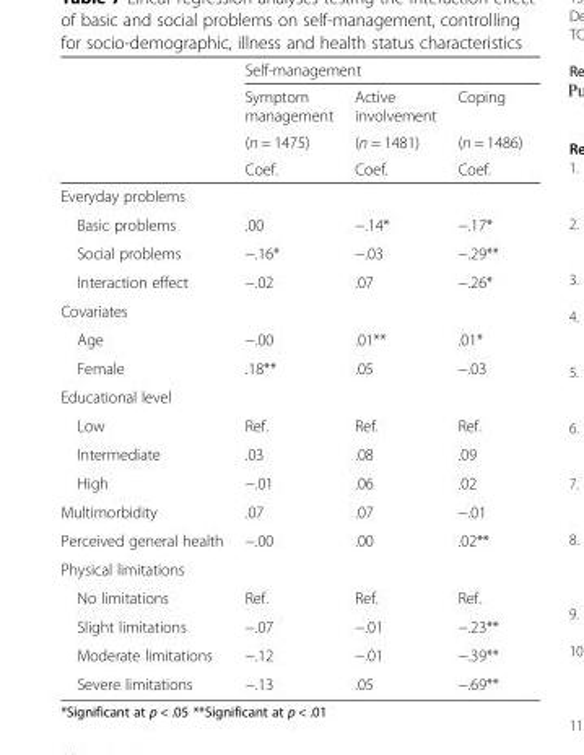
<table><thead><tr><td rowspan="4"></td><td colspan="3">Self-management</td></tr><tr><td rowspan="3">Symptom management (n = 1475) Coef.</td><td rowspan="3">Active involvement (n = 1481) Coef.</td><td rowspan="3">Coping (n = 1486) Coef.</td></tr><tr></tr><tr></tr></thead><tbody><tr><td colspan="4">Everyday problems</td></tr><tr><td>Basic problems</td><td>.00</td><td>−.14*</td><td>−.17*</td></tr><tr><td>Social problems</td><td>−.16*</td><td>−.03</td><td>−.29**</td></tr><tr><td>Interaction effect</td><td>−.02</td><td>.07</td><td>−.26*</td></tr><tr><td colspan="4">Covariates</td></tr><tr><td>Age</td><td>−.00</td><td>.01**</td><td>.01*</td></tr><tr><td>Female</td><td>.18**</td><td>.05</td><td>−.03</td></tr><tr><td colspan="4">Educational level</td></tr><tr><td>Low</td><td>Ref.</td><td>Ref.</td><td>Ref.</td></tr><tr><td>Intermediate</td><td>.03</td><td>.08</td><td>.09</td></tr><tr><td>High</td><td>−.01</td><td>.06</td><td>.02</td></tr><tr><td>Multimorbidity</td><td>.07</td><td>.07</td><td>−.01</td></tr><tr><td>Perceived general health</td><td>−.00</td><td>.00</td><td>.02**</td></tr><tr><td colspan="4">Physical limitations</td></tr><tr><td>No limitations</td><td>Ref.</td><td>Ref.</td><td>Ref.</td></tr><tr><td>Slight limitations</td><td>−.07</td><td>−.01</td><td>−.23**</td></tr><tr><td>Moderate limitations</td><td>−.12</td><td>−.01</td><td>−.39**</td></tr><tr><td>Severe limitations</td><td>−.13</td><td>.05</td><td>−.69**</td></tr></tbody></table>